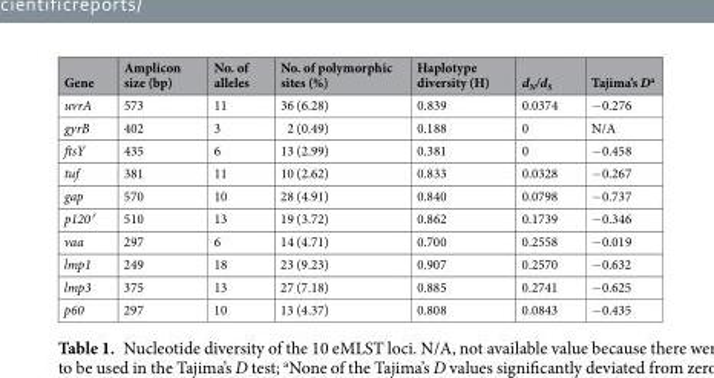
<table><thead><tr><td>Gene</td><td>Amplicon size (bp)</td><td>No. of alleles</td><td>No. of polymorphic sites (%)</td><td>Haplotype diversity (H)</td><td>d<sub>N</sub>/d<sub>S</sub></td><td>Tajima’s D<sup>a</sup></td></tr></thead><tbody><tr><td>uvrA</td><td>573</td><td>11</td><td>36 (6.28)</td><td>0.839</td><td>0.0374</td><td>−0.276</td></tr><tr><td>gyrB</td><td>402</td><td>3</td><td>2 (0.49)</td><td>0.188</td><td>0</td><td>N/A</td></tr><tr><td>ftsY</td><td>435</td><td>6</td><td>13 (2.99)</td><td>0.381</td><td>0</td><td>−0.458</td></tr><tr><td>tuf</td><td>381</td><td>11</td><td>10 (2.62)</td><td>0.833</td><td>0.0328</td><td>−0.267</td></tr><tr><td>gap</td><td>570</td><td>10</td><td>28 (4.91)</td><td>0.840</td><td>0.0798</td><td>−0.737</td></tr><tr><td>p120′</td><td>510</td><td>13</td><td>19 (3.72)</td><td>0.862</td><td>0.1739</td><td>−0.346</td></tr><tr><td>vaa</td><td>297</td><td>6</td><td>14 (4.71)</td><td>0.700</td><td>0.2558</td><td>−0.019</td></tr><tr><td>lmp1</td><td>249</td><td>18</td><td>23 (9.23)</td><td>0.907</td><td>0.2570</td><td>−0.632</td></tr><tr><td>lmp3</td><td>375</td><td>13</td><td>27 (7.18)</td><td>0.885</td><td>0.2741</td><td>−0.625</td></tr><tr><td>p60</td><td>297</td><td>10</td><td>13 (4.37)</td><td>0.808</td><td>0.0843</td><td>−0.435</td></tr></tbody></table>